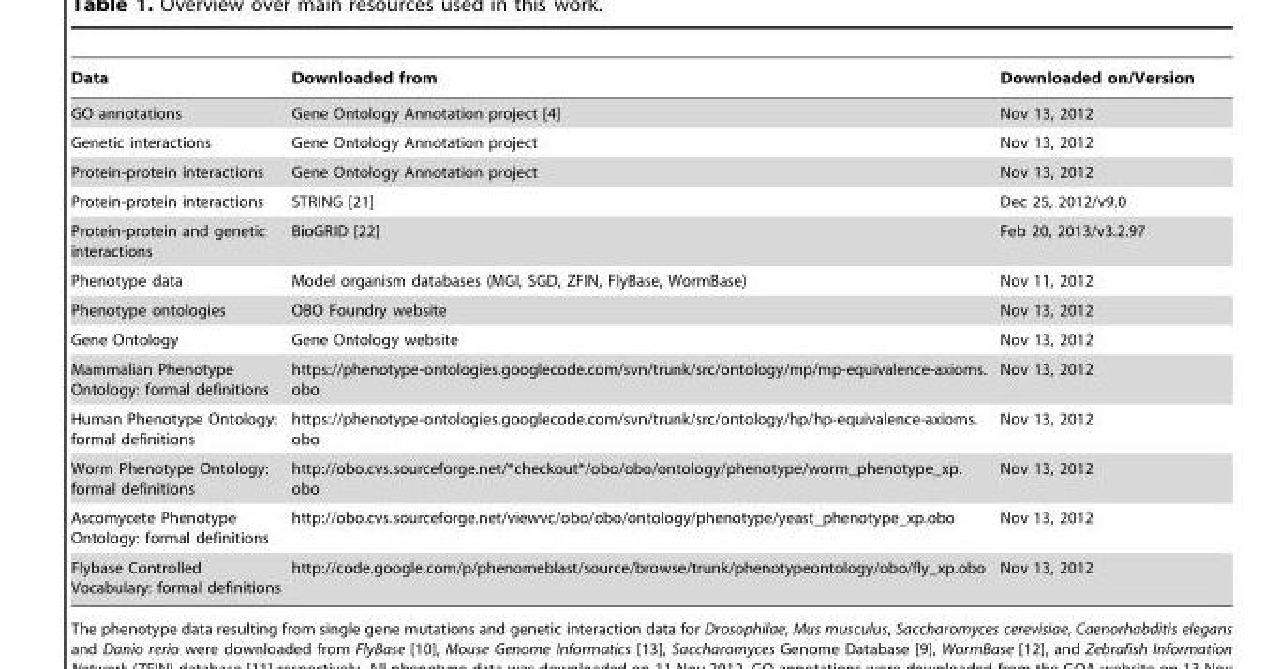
<table><thead><tr><td>Data</td><td>Downloaded from</td><td>Downloaded on/Version</td></tr></thead><tbody><tr><td>GO annotations</td><td>Gene Ontology Annotation project [4]</td><td>Nov 13, 2012</td></tr><tr><td>Genetic interactions</td><td>Gene Ontology Annotation project</td><td>Nov 13, 2012</td></tr><tr><td>Protein-protein interactions</td><td>Gene Ontology Annotation project</td><td>Nov 13, 2012</td></tr><tr><td>Protein-protein interactions</td><td>STRING [21]</td><td>Dec 25, 2012/v9.0</td></tr><tr><td>Protein-protein and genetic interactions</td><td>BioGRID [22]</td><td>Feb 20, 2013/v3.2.97</td></tr><tr><td>Phenotype data</td><td>Model organism databases (MGI, SGD, ZFIN, FlyBase, WormBase)</td><td>Nov 11, 2012</td></tr><tr><td>Phenotype ontologies</td><td>OBO Foundry website</td><td>Nov 13, 2012</td></tr><tr><td>Gene Ontology</td><td>Gene Ontology website</td><td>Nov 13, 2012</td></tr><tr><td>Mammalian Phenotype Ontology: formal definitions</td><td>https://phenotype-ontologies.googlecode.com/svn/trunk/src/ontology/mp/mp-equivalence-axioms. obo</td><td>Nov 13, 2012</td></tr><tr><td>Human Phenotype Ontology: formal definitions</td><td>https://phenotype-ontologies.googlecode.com/svn/trunk/src/ontology/hp/hp-equivalence-axioms. obo</td><td>Nov 13, 2012</td></tr><tr><td>Worm Phenotype Ontology: formal definitions</td><td>http://obo.cvs.sourceforge.net/*checkout*/obo/obo/ontology/phenotype/worm_phenotype_xp. obo</td><td>Nov 13, 2012</td></tr><tr><td>Ascomycete Phenotype Ontology: formal definitions</td><td>http://obo.cvs.sourceforge.net/viewvc/obo/obo/ontology/phenotype/yeast_phenotype_xp.obo</td><td>Nov 13, 2012</td></tr><tr><td>Flybase Controlled Vocabulary: formal definitions</td><td>http://code.google.com/p/phenomeblast/source/browse/trunk/phenotypeontology/obo/fly_xp.obo</td><td>Nov 13, 2012</td></tr></tbody></table>